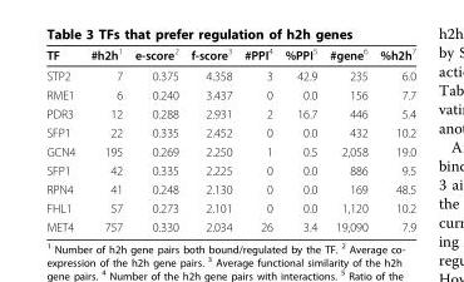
<table><thead><tr><td>TF</td><td>#h2h<sup>1</sup></td><td>e-score<sup>2</sup></td><td>f-score<sup>3</sup></td><td>#PPI<sup>4</sup></td><td>%PPI<sup>5</sup></td><td>#gene<sup>6</sup></td><td>%h2h<sup>7</sup></td></tr></thead><tbody><tr><td>STP2</td><td>7</td><td>0.375</td><td>4.358</td><td>3</td><td>42.9</td><td>235</td><td>6.0</td></tr><tr><td>RME1</td><td>6</td><td>0.240</td><td>3.437</td><td>0</td><td>0.0</td><td>156</td><td>7.7</td></tr><tr><td>PDR3</td><td>12</td><td>0.288</td><td>2.931</td><td>2</td><td>16.7</td><td>446</td><td>5.4</td></tr><tr><td>SFP1</td><td>22</td><td>0.335</td><td>2.452</td><td>0</td><td>0.0</td><td>432</td><td>10.2</td></tr><tr><td>GCN4</td><td>195</td><td>0.269</td><td>2.250</td><td>1</td><td>0.5</td><td>2,058</td><td>19.0</td></tr><tr><td>SFP1</td><td>42</td><td>0.335</td><td>2.225</td><td>0</td><td>0.0</td><td>886</td><td>9.5</td></tr><tr><td>RPN4</td><td>41</td><td>0.248</td><td>2.130</td><td>0</td><td>0.0</td><td>169</td><td>48.5</td></tr><tr><td>FHL1</td><td>57</td><td>0.273</td><td>2.101</td><td>0</td><td>0.0</td><td>1,120</td><td>10.2</td></tr><tr><td>MET4</td><td>757</td><td>0.330</td><td>2.034</td><td>26</td><td>3.4</td><td>19,090</td><td>7.9</td></tr></tbody></table>